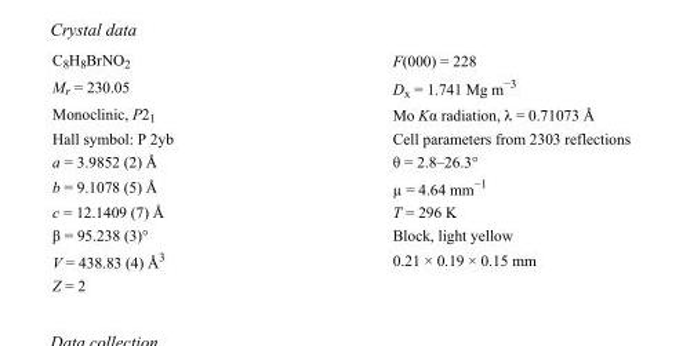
<table><tbody><tr><td>C<sub>8</sub>H<sub>8</sub>BrNO<sub>2</sub></td><td>F(000) = 228</td></tr><tr><td>M<sub>r</sub> = 230.05</td><td>D<sub>x</sub> = 1.741 Mg m<sup>−3</sup></td></tr><tr><td>Monoclinic, P2<sub>1</sub></td><td>Mo Kα radiation, λ = 0.71073 Å</td></tr><tr><td>Hall symbol: P 2yb</td><td>Cell parameters from 2303 reflections</td></tr><tr><td>a = 3.9852 (2) Å</td><td>θ = 2.8–26.3°</td></tr><tr><td>b = 9.1078 (5) Å</td><td>µ = 4.64 mm<sup>−1</sup></td></tr><tr><td>c = 12.1409 (7) Å</td><td>T = 296 K</td></tr><tr><td>β = 95.238 (3)°</td><td>Block, light yellow</td></tr><tr><td>V = 438.83 (4) Å<sup>3</sup></td><td>0.21 × 0.19 × 0.15 mm</td></tr><tr><td>Z = 2</td><td></td></tr></tbody></table>